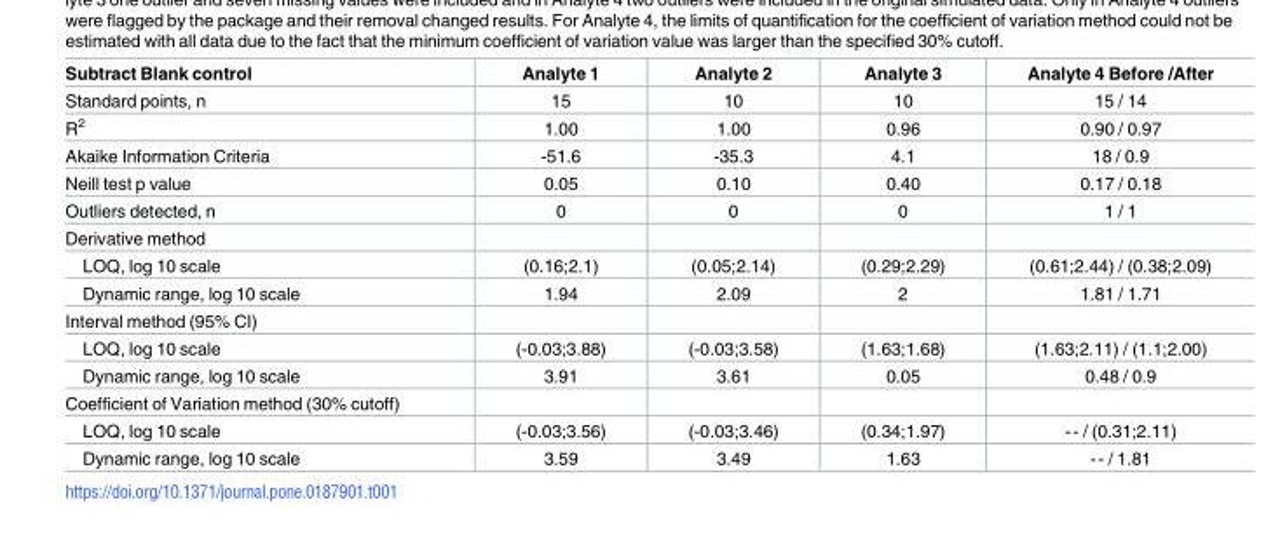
<table><thead><tr><td>Subtract Blank control</td><td>Analyte 1</td><td>Analyte 2</td><td>Analyte 3</td><td>Analyte 4 Before /After</td></tr></thead><tbody><tr><td>Standard points, n</td><td>15</td><td>10</td><td>10</td><td>15 / 14</td></tr><tr><td>R<sup>2</sup></td><td>1.00</td><td>1.00</td><td>0.96</td><td>0.90 / 0.97</td></tr><tr><td>Akaike Information Criteria</td><td>-51.6</td><td>-35.3</td><td>4.1</td><td>18 / 0.9</td></tr><tr><td>Neill test p value</td><td>0.05</td><td>0.10</td><td>0.40</td><td>0.17 / 0.18</td></tr><tr><td>Outliers detected, n</td><td>0</td><td>0</td><td>0</td><td>1 / 1</td></tr><tr><td colspan="5">Derivative method</td></tr><tr><td>LOQ, log 10 scale</td><td>(0.16;2.1)</td><td>(0.05;2.14)</td><td>(0.29;2.29)</td><td>(0.61;2.44) / (0.38;2.09)</td></tr><tr><td>Dynamic range, log 10 scale</td><td>1.94</td><td>2.09</td><td>2</td><td>1.81 / 1.71</td></tr><tr><td colspan="5">Interval method (95% CI)</td></tr><tr><td>LOQ, log 10 scale</td><td>(-0.03;3.88)</td><td>(-0.03;3.58)</td><td>(1.63;1.68)</td><td>(1.63;2.11) / (1.1;2.00)</td></tr><tr><td>Dynamic range, log 10 scale</td><td>3.91</td><td>3.61</td><td>0.05</td><td>0.48 / 0.9</td></tr><tr><td colspan="5">Coefficient of Variation method (30% cutoff)</td></tr><tr><td>LOQ, log 10 scale</td><td>(-0.03;3.56)</td><td>(-0.03;3.46)</td><td>(0.34;1.97)</td><td>-- / (0.31;2.11)</td></tr><tr><td>Dynamic range, log 10 scale</td><td>3.59</td><td>3.49</td><td>1.63</td><td>-- / 1.81</td></tr></tbody></table>